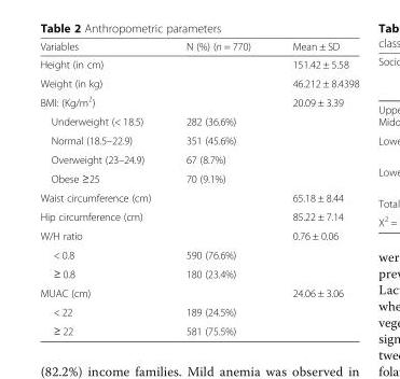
<table><thead><tr><td>Variables</td><td>N (%) (n = 770)</td><td>Mean ± SD</td></tr></thead><tbody><tr><td colspan="2">Height (in cm)</td><td>151.42 ± 5.58</td></tr><tr><td colspan="2">Weight (in kg)</td><td>46.212 ± 8.4398</td></tr><tr><td colspan="2">BMI: (Kg/m<sup>2</sup>)</td><td>20.09 ± 3.39</td></tr><tr><td>Underweight (&lt; 18.5)</td><td>282 (36.6%)</td><td></td></tr><tr><td>Normal (18.5–22.9)</td><td>351 (45.6%)</td><td></td></tr><tr><td>Overweight (23–24.9)</td><td>67 (8.7%)</td><td></td></tr><tr><td>Obese ≥25</td><td>70 (9.1%)</td><td></td></tr><tr><td colspan="2">Waist circumference (cm)</td><td>65.18 ± 8.44</td></tr><tr><td colspan="2">Hip circumference (cm)</td><td>85.22 ± 7.14</td></tr><tr><td colspan="2">W/H ratio</td><td>0.76 ± 0.06</td></tr><tr><td>&lt; 0.8</td><td>590 (76.6%)</td><td></td></tr><tr><td>≥ 0.8</td><td>180 (23.4%)</td><td></td></tr><tr><td colspan="2">MUAC (cm)</td><td>24.06 ± 3.06</td></tr><tr><td>&lt; 22</td><td>189 (24.5%)</td><td></td></tr><tr><td>≥ 22</td><td>581 (75.5%)</td><td></td></tr></tbody></table>